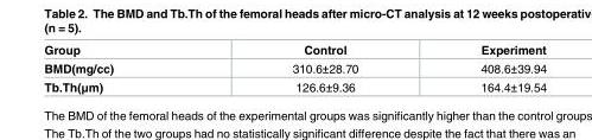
<table><thead><tr><td>Group</td><td>Control</td><td>Experiment</td></tr></thead><tbody><tr><td>BMD(mg/cc)</td><td>310.6±28.70</td><td>408.6±39.94</td></tr><tr><td>Tb.Th(μm)</td><td>126.6±9.36</td><td>164.4±19.54</td></tr></tbody></table>